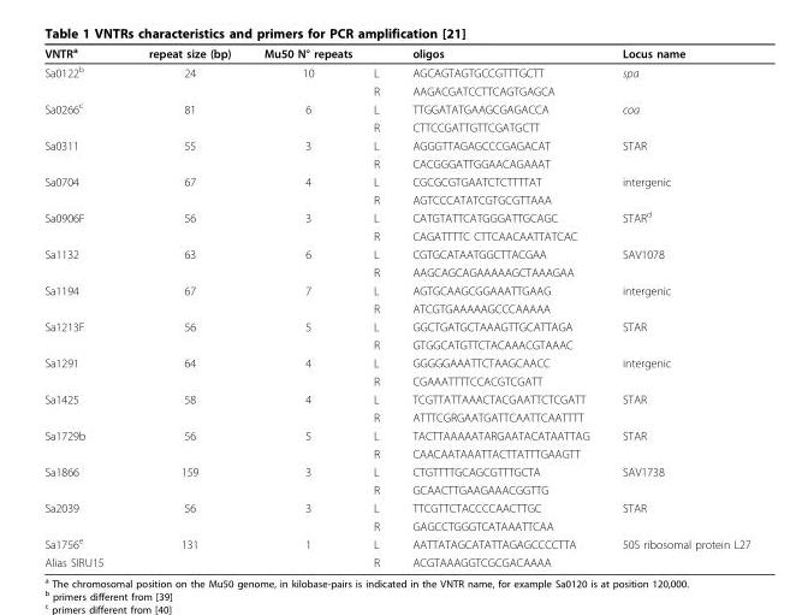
<table><thead><tr><td>VNTR<sup>a</sup></td><td>repeat size (bp)</td><td>Mu50 N° repeats</td><td></td><td>oligos</td><td>Locus name</td></tr></thead><tbody><tr><td rowspan="2">Sa0122<sup>b</sup></td><td>24</td><td>10</td><td>L</td><td>AGCAGTAGTGCCGTTTGCTT</td><td>spa</td></tr><tr><td></td><td></td><td>R</td><td>AAGACGATCCTTCAGTGAGCA</td><td></td></tr><tr><td rowspan="2">Sa0266<sup>c</sup></td><td>81</td><td>6</td><td>L</td><td>TTGGATATGAAGCGAGACCA</td><td>coa</td></tr><tr><td></td><td></td><td>R</td><td>CTTCCGATTGTTCGATGCTT</td><td></td></tr><tr><td rowspan="2">Sa0311</td><td>55</td><td>3</td><td>L</td><td>AGGGTTAGAGCCCGAGACAT</td><td>STAR</td></tr><tr><td></td><td></td><td>R</td><td>CACGGGATTGGAACAGAAAT</td><td></td></tr><tr><td rowspan="2">Sa0704</td><td>67</td><td>4</td><td>L</td><td>CGCGCGTGAATCTCTTTTAT</td><td>intergenic</td></tr><tr><td></td><td></td><td>R</td><td>AGTCCCATATCGTGCGTTAAA</td><td></td></tr><tr><td rowspan="2">Sa0906F</td><td>56</td><td>3</td><td>L</td><td>CATGTATTCATGGGATTGCAGC</td><td>STAR<sup>d</sup></td></tr><tr><td></td><td></td><td>R</td><td>CAGATTTTC CTTCAACAATTATCAC</td><td></td></tr><tr><td rowspan="2">Sa1132</td><td>63</td><td>6</td><td>L</td><td>CGTGCATAATGGCTTACGAA</td><td>SAV1078</td></tr><tr><td></td><td></td><td>R</td><td>AAGCAGCAGAAAAAGCTAAAGAA</td><td></td></tr><tr><td rowspan="2">Sa1194</td><td>67</td><td>7</td><td>L</td><td>AGTGCAAGCGGAAATTGAAG</td><td>intergenic</td></tr><tr><td></td><td></td><td>R</td><td>ATCGTGAAAAAGCCCAAAAA</td><td></td></tr><tr><td rowspan="2">Sa1213F</td><td>56</td><td>5</td><td>L</td><td>GGCTGATGCTAAAGTTGCATTAGA</td><td>STAR</td></tr><tr><td></td><td></td><td>R</td><td>GTGGCATGTTCTACAAACGTAAAC</td><td></td></tr><tr><td rowspan="2">Sa1291</td><td>64</td><td>4</td><td>L</td><td>GGGGGAAATTCTAAGCAACC</td><td>intergenic</td></tr><tr><td></td><td></td><td>R</td><td>CGAAATTTTCCACGTCGATT</td><td></td></tr><tr><td rowspan="2">Sa1425</td><td>58</td><td>4</td><td>L</td><td>TCGTTATTAAACTACGAATTCTCGATT</td><td>STAR</td></tr><tr><td></td><td></td><td>R</td><td>ATTTCGRGAATGATTCAATTCAATTTT</td><td></td></tr><tr><td rowspan="2">Sa1729b</td><td>56</td><td>5</td><td>L</td><td>TACTTAAAAATARGAATACATAATTAG</td><td>STAR</td></tr><tr><td></td><td></td><td>R</td><td>CAACAATAAATTACTTATTTGAAGTT</td><td></td></tr><tr><td rowspan="2">Sa1866</td><td>159</td><td>3</td><td>L</td><td>CTGTTTTGCAGCGTTTGCTA</td><td>SAV1738</td></tr><tr><td></td><td></td><td>R</td><td>GCAACTTGAAGAAACGGTTG</td><td></td></tr><tr><td rowspan="2">Sa2039</td><td>56</td><td>3</td><td>L</td><td>TTCGTTCTACCCCAACTTGC</td><td>STAR</td></tr><tr><td></td><td></td><td>R</td><td>GAGCCTGGGTCATAAATTCAA</td><td></td></tr><tr><td>Sa1756<sup>e</sup></td><td>131</td><td>1</td><td>L</td><td>AATTATAGCATATTAGAGCCCCTTA</td><td>50S ribosomal protein L27</td></tr><tr><td>Alias SIRU15</td><td></td><td></td><td>R</td><td>ACGTAAAGGTCGCGACAAAA</td><td></td></tr></tbody></table>